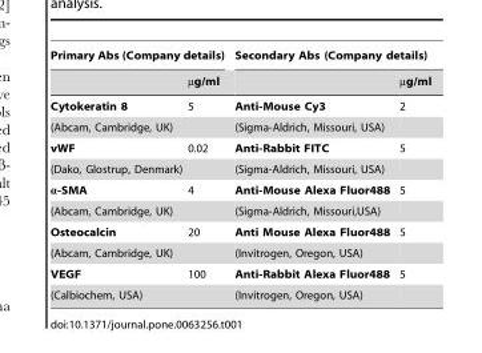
<table><thead><tr><td colspan="2">Primary Abs (Company details)</td><td colspan="2">Secondary Abs (Company details)</td></tr><tr><td></td><td>µg/ml</td><td></td><td>µg/ml</td></tr></thead><tbody><tr><td>Cytokeratin 8</td><td>5</td><td>Anti-Mouse Cy3</td><td>2</td></tr><tr><td>(Abcam, Cambridge, UK)</td><td></td><td>(Sigma-Aldrich, Missouri, USA)</td><td></td></tr><tr><td>vWF</td><td>0.02</td><td>Anti-Rabbit FITC</td><td>5</td></tr><tr><td>(Dako, Glostrup, Denmark)</td><td></td><td>(Sigma-Aldrich, Missouri, USA)</td><td></td></tr><tr><td>α-SMA</td><td>4</td><td>Anti-Mouse Alexa Fluor488</td><td>5</td></tr><tr><td>(Abcam, Cambridge, UK)</td><td></td><td>(Sigma-Aldrich, Missouri,USA)</td><td></td></tr><tr><td>Osteocalcin</td><td>20</td><td>Anti Mouse Alexa Fluor488</td><td>5</td></tr><tr><td>(Abcam, Cambridge, UK)</td><td></td><td>(Invitrogen, Oregon, USA)</td><td></td></tr><tr><td>VEGF</td><td>100</td><td>Anti-Rabbit Alexa Fluor488</td><td>5</td></tr><tr><td>(Calbiochem, USA)</td><td></td><td>(Invitrogen, Oregon, USA)</td><td></td></tr></tbody></table>